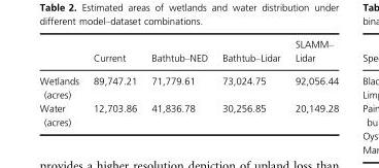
<table><thead><tr><td></td><td>Current</td><td>Bathtub–NED</td><td>Bathtub–Lidar</td><td>SLAMM– Lidar</td></tr></thead><tbody><tr><td>Wetlands (acres)</td><td>89,747.21</td><td>71,779.61</td><td>73,024.75</td><td>92,056.44</td></tr><tr><td>Water (acres)</td><td>12,703.86</td><td>41,836.78</td><td>30,256.85</td><td>20,149.28</td></tr></tbody></table>